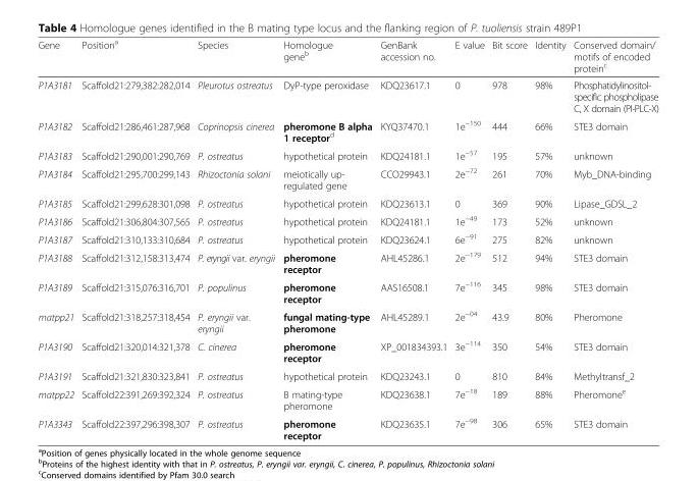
<table><thead><tr><td>Gene</td><td>Position<sup>a</sup></td><td>Species</td><td>Homologue gene<sup>b</sup></td><td>GenBank accession no.</td><td>E value</td><td>Bit score</td><td>Identity</td><td>Conserved domain/ motifs of encoded protein<sup>c</sup></td></tr></thead><tbody><tr><td>P1A3181</td><td>Scaffold21:279,382:282,014</td><td>Pleurotus ostreatus</td><td>DyP-type peroxidase</td><td>KDQ23617.1</td><td>0</td><td>978</td><td>98%</td><td>Phosphatidylinositol- specific phospholipase C, X domain (PI-PLC-X)</td></tr><tr><td>P1A3182</td><td>Scaffold21:286,461:287,968</td><td>Coprinopsis cinerea</td><td>pheromone B alpha 1 receptor<sup>d</sup></td><td>KYQ37470.1</td><td>1e<sup>−150</sup></td><td>444</td><td>66%</td><td>STE3 domain</td></tr><tr><td>P1A3183</td><td>Scaffold21:290,001:290,769</td><td>P. ostreatus</td><td>hypothetical protein</td><td>KDQ24181.1</td><td>1e<sup>−57</sup></td><td>195</td><td>57%</td><td>unknown</td></tr><tr><td>P1A3184</td><td>Scaffold21:295,700:299,143</td><td>Rhizoctonia solani</td><td>meiotically up- regulated gene</td><td>CCO29943.1</td><td>2e<sup>−72</sup></td><td>261</td><td>70%</td><td>Myb_DNA-binding</td></tr><tr><td>P1A3185</td><td>Scaffold21:299,628:301,098</td><td>P. ostreatus</td><td>hypothetical protein</td><td>KDQ23613.1</td><td>0</td><td>369</td><td>90%</td><td>Lipase_GDSL_2</td></tr><tr><td>P1A3186</td><td>Scaffold21:306,804:307,565</td><td>P. ostreatus</td><td>hypothetical protein</td><td>KDQ24181.1</td><td>1e<sup>−49</sup></td><td>173</td><td>52%</td><td>unknown</td></tr><tr><td>P1A3187</td><td>Scaffold21:310,133:310,684</td><td>P. ostreatus</td><td>hypothetical protein</td><td>KDQ23624.1</td><td>6e<sup>−91</sup></td><td>275</td><td>82%</td><td>unknown</td></tr><tr><td>P1A3188</td><td>Scaffold21:312,158:313,474</td><td>P. eryngii var. eryngii</td><td>pheromone receptor</td><td>AHL45286.1</td><td>2e<sup>−179</sup></td><td>512</td><td>94%</td><td>STE3 domain</td></tr><tr><td>P1A3189</td><td>Scaffold21:315,076:316,701</td><td>P. populinus</td><td>pheromone receptor</td><td>AAS16508.1</td><td>7e<sup>−116</sup></td><td>345</td><td>98%</td><td>STE3 domain</td></tr><tr><td>matpp21</td><td>Scaffold21:318,257:318,454</td><td>P. eryngii var. eryngii</td><td>fungal mating-type pheromone</td><td>AHL45289.1</td><td>2e<sup>−04</sup></td><td>43.9</td><td>80%</td><td>Pheromone</td></tr><tr><td>P1A3190</td><td>Scaffold21:320,014:321,378</td><td>C. cinerea</td><td>pheromone receptor</td><td>XP_001834393.1</td><td>3e<sup>−114</sup></td><td>350</td><td>54%</td><td>STE3 domain</td></tr><tr><td>P1A3191</td><td>Scaffold21:321,830:323,841</td><td>P. ostreatus</td><td>hypothetical protein</td><td>KDQ23243.1</td><td>0</td><td>810</td><td>84%</td><td>Methyltransf_2</td></tr><tr><td>matpp22</td><td>Scaffold22:391,269:392,324</td><td>P. ostreatus</td><td>B mating-type pheromone</td><td>KDQ23638.1</td><td>7e<sup>−18</sup></td><td>189</td><td>88%</td><td>Pheromone<sup>e</sup></td></tr><tr><td>P1A3343</td><td>Scaffold22:397,296:398,307</td><td>P. ostreatus</td><td>pheromone receptor</td><td>KDQ23635.1</td><td>7e<sup>−98</sup></td><td>306</td><td>65%</td><td>STE3 domain</td></tr></tbody></table>